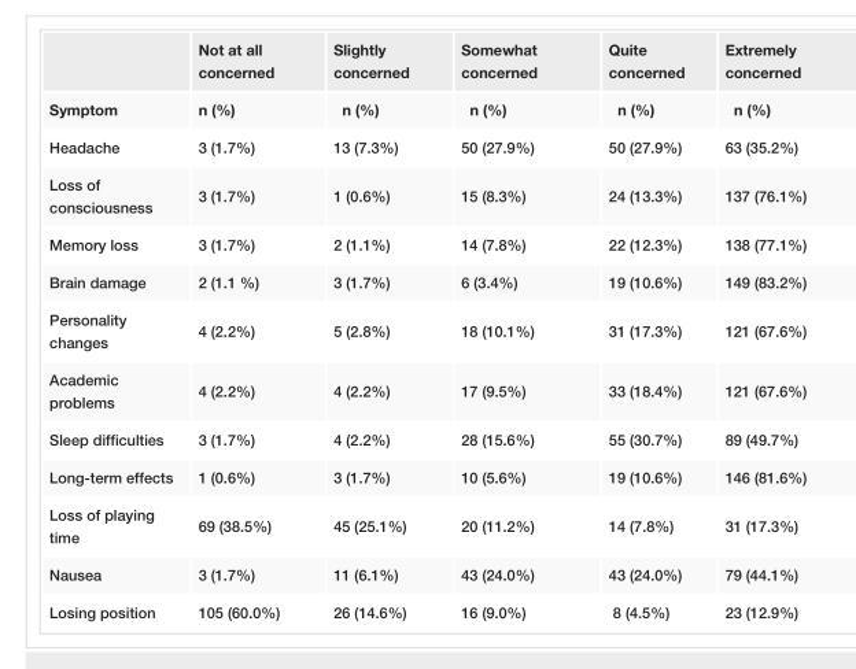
<table><thead><tr><td></td><td>Not at all concerned</td><td>Slightly concerned</td><td>Somewhat concerned</td><td>Quite concerned</td><td>Extremely concerned</td></tr></thead><tbody><tr><td>Symptom</td><td>n (%)</td><td>n (%)</td><td>n (%)</td><td>n (%)</td><td>n (%)</td></tr><tr><td>Headache</td><td>3 (1.7%)</td><td>13 (7.3%)</td><td>50 (27.9%)</td><td>50 (27.9%)</td><td>63 (35.2%)</td></tr><tr><td>Loss of consciousness</td><td>3 (1.7%)</td><td>1 (0.6%)</td><td>15 (8.3%)</td><td>24 (13.3%)</td><td>137 (76.1%)</td></tr><tr><td>Memory loss</td><td>3 (1.7%)</td><td>2 (1.1%)</td><td>14 (7.8%)</td><td>22 (12.3%)</td><td>138 (77.1%)</td></tr><tr><td>Brain damage</td><td>2 (1.1 %)</td><td>3 (1.7%)</td><td>6 (3.4%)</td><td>19 (10.6%)</td><td>149 (83.2%)</td></tr><tr><td>Personality changes</td><td>4 (2.2%)</td><td>5 (2.8%)</td><td>18 (10.1%)</td><td>31 (17.3%)</td><td>121 (67.6%)</td></tr><tr><td>Academic problems</td><td>4 (2.2%)</td><td>4 (2.2%)</td><td>17 (9.5%)</td><td>33 (18.4%)</td><td>121 (67.6%)</td></tr><tr><td>Sleep difficulties</td><td>3 (1.7%)</td><td>4 (2.2%)</td><td>28 (15.6%)</td><td>55 (30.7%)</td><td>89 (49.7%)</td></tr><tr><td>Long-term effects</td><td>1 (0.6%)</td><td>3 (1.7%)</td><td>10 (5.6%)</td><td>19 (10.6%)</td><td>146 (81.6%)</td></tr><tr><td>Loss of playing time</td><td>69 (38.5%)</td><td>45 (25.1%)</td><td>20 (11.2%)</td><td>14 (7.8%)</td><td>31 (17.3%)</td></tr><tr><td>Nausea</td><td>3 (1.7%)</td><td>11 (6.1%)</td><td>43 (24.0%)</td><td>43 (24.0%)</td><td>79 (44.1%)</td></tr><tr><td>Losing position</td><td>105 (60.0%)</td><td>26 (14.6%)</td><td>16 (9.0%)</td><td>8 (4.5%)</td><td>23 (12.9%)</td></tr></tbody></table>